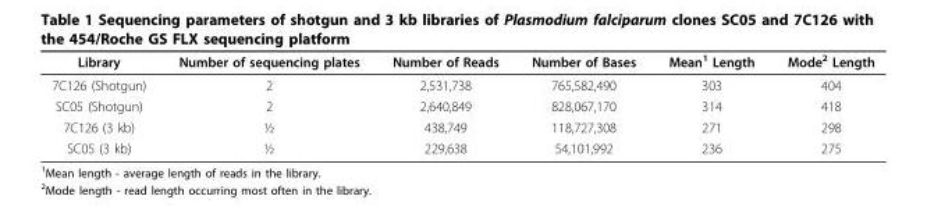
<table><thead><tr><td>Library</td><td>Number of sequencing plates</td><td>Number of Reads</td><td>Number of Bases</td><td>Mean<sup>1</sup> Length</td><td>Mode<sup>2</sup> Length</td></tr></thead><tbody><tr><td>7C126 (Shotgun)</td><td>2</td><td>2,531,738</td><td>765,582,490</td><td>303</td><td>404</td></tr><tr><td>SC05 (Shotgun)</td><td>2</td><td>2,640,849</td><td>828,067,170</td><td>314</td><td>418</td></tr><tr><td>7C126 (3 kb)</td><td>½</td><td>438,749</td><td>118,727,308</td><td>271</td><td>298</td></tr><tr><td>SC05 (3 kb)</td><td>½</td><td>229,638</td><td>54,101,992</td><td>236</td><td>275</td></tr></tbody></table>